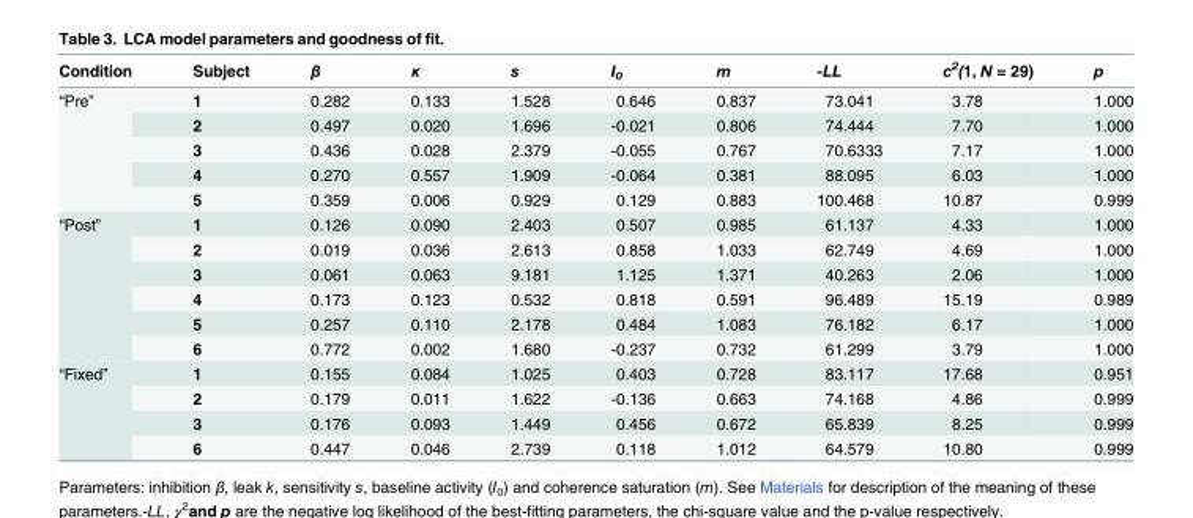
<table><thead><tr><td>Condition</td><td>Subject</td><td>β</td><td>κ</td><td>s</td><td>I<sub>0</sub></td><td>m</td><td>-LL</td><td>c<sup>2</sup>(1, N = 29)</td><td>p</td></tr></thead><tbody><tr><td rowspan="5">“Pre”</td><td>1</td><td>0.282</td><td>0.133</td><td>1.528</td><td>0.646</td><td>0.837</td><td>73.041</td><td>3.78</td><td>1.000</td></tr><tr><td>2</td><td>0.497</td><td>0.020</td><td>1.696</td><td>-0.021</td><td>0.806</td><td>74.444</td><td>7.70</td><td>1.000</td></tr><tr><td>3</td><td>0.436</td><td>0.028</td><td>2.379</td><td>-0.055</td><td>0.767</td><td>70.6333</td><td>7.17</td><td>1.000</td></tr><tr><td>4</td><td>0.270</td><td>0.557</td><td>1.909</td><td>-0.064</td><td>0.381</td><td>88.095</td><td>6.03</td><td>1.000</td></tr><tr><td>5</td><td>0.359</td><td>0.006</td><td>0.929</td><td>0.129</td><td>0.883</td><td>100.468</td><td>10.87</td><td>0.999</td></tr><tr><td rowspan="6">“Post”</td><td>1</td><td>0.126</td><td>0.090</td><td>2.403</td><td>0.507</td><td>0.985</td><td>61.137</td><td>4.33</td><td>1.000</td></tr><tr><td>2</td><td>0.019</td><td>0.036</td><td>2.613</td><td>0.858</td><td>1.033</td><td>62.749</td><td>4.69</td><td>1.000</td></tr><tr><td>3</td><td>0.061</td><td>0.063</td><td>9.181</td><td>1.125</td><td>1.371</td><td>40.263</td><td>2.06</td><td>1.000</td></tr><tr><td>4</td><td>0.173</td><td>0.123</td><td>0.532</td><td>0.818</td><td>0.591</td><td>96.489</td><td>15.19</td><td>0.989</td></tr><tr><td>5</td><td>0.257</td><td>0.110</td><td>2.178</td><td>0.484</td><td>1.083</td><td>76.182</td><td>6.17</td><td>1.000</td></tr><tr><td>6</td><td>0.772</td><td>0.002</td><td>1.680</td><td>-0.237</td><td>0.732</td><td>61.299</td><td>3.79</td><td>1.000</td></tr><tr><td rowspan="4">“Fixed”</td><td>1</td><td>0.155</td><td>0.084</td><td>1.025</td><td>0.403</td><td>0.728</td><td>83.117</td><td>17.68</td><td>0.951</td></tr><tr><td>2</td><td>0.179</td><td>0.011</td><td>1.622</td><td>-0.136</td><td>0.663</td><td>74.168</td><td>4.86</td><td>0.999</td></tr><tr><td>3</td><td>0.176</td><td>0.093</td><td>1.449</td><td>0.456</td><td>0.672</td><td>65.839</td><td>8.25</td><td>0.999</td></tr><tr><td>6</td><td>0.447</td><td>0.046</td><td>2.739</td><td>0.118</td><td>1.012</td><td>64.579</td><td>10.80</td><td>0.999</td></tr></tbody></table>